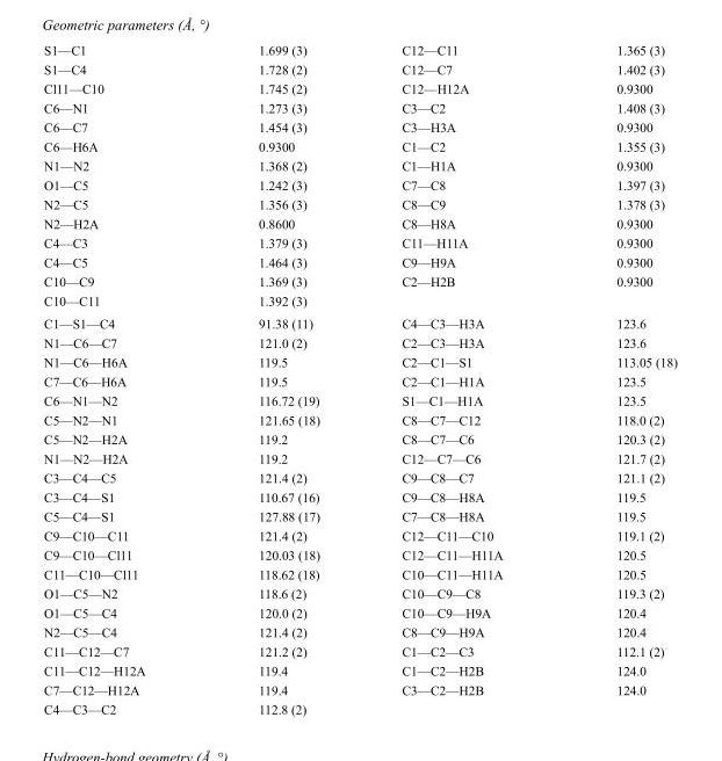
<table><tbody><tr><td>S1—C1</td><td>1.699 (3)</td><td>C12—C11</td><td>1.365 (3)</td></tr><tr><td>S1—C4</td><td>1.728 (2)</td><td>C12—C7</td><td>1.402 (3)</td></tr><tr><td>Cl11—C10</td><td>1.745 (2)</td><td>C12—H12A</td><td>0.9300</td></tr><tr><td>C6—N1</td><td>1.273 (3)</td><td>C3—C2</td><td>1.408 (3)</td></tr><tr><td>C6—C7</td><td>1.454 (3)</td><td>C3—H3A</td><td>0.9300</td></tr><tr><td>C6—H6A</td><td>0.9300</td><td>C1—C2</td><td>1.355 (3)</td></tr><tr><td>N1—N2</td><td>1.368 (2)</td><td>C1—H1A</td><td>0.9300</td></tr><tr><td>O1—C5</td><td>1.242 (3)</td><td>C7—C8</td><td>1.397 (3)</td></tr><tr><td>N2—C5</td><td>1.356 (3)</td><td>C8—C9</td><td>1.378 (3)</td></tr><tr><td>N2—H2A</td><td>0.8600</td><td>C8—H8A</td><td>0.9300</td></tr><tr><td>C4—C3</td><td>1.379 (3)</td><td>C11—H11A</td><td>0.9300</td></tr><tr><td>C4—C5</td><td>1.464 (3)</td><td>C9—H9A</td><td>0.9300</td></tr><tr><td>C10—C9</td><td>1.369 (3)</td><td>C2—H2B</td><td>0.9300</td></tr><tr><td>C10—C11</td><td>1.392 (3)</td><td></td><td></td></tr><tr><td>C1—S1—C4</td><td>91.38 (11)</td><td>C4—C3—H3A</td><td>123.6</td></tr><tr><td>N1—C6—C7</td><td>121.0 (2)</td><td>C2—C3—H3A</td><td>123.6</td></tr><tr><td>N1—C6—H6A</td><td>119.5</td><td>C2—C1—S1</td><td>113.05 (18)</td></tr><tr><td>C7—C6—H6A</td><td>119.5</td><td>C2—C1—H1A</td><td>123.5</td></tr><tr><td>C6—N1—N2</td><td>116.72 (19)</td><td>S1—C1—H1A</td><td>123.5</td></tr><tr><td>C5—N2—N1</td><td>121.65 (18)</td><td>C8—C7—C12</td><td>118.0 (2)</td></tr><tr><td>C5—N2—H2A</td><td>119.2</td><td>C8—C7—C6</td><td>120.3 (2)</td></tr><tr><td>N1—N2—H2A</td><td>119.2</td><td>C12—C7—C6</td><td>121.7 (2)</td></tr><tr><td>C3—C4—C5</td><td>121.4 (2)</td><td>C9—C8—C7</td><td>121.1 (2)</td></tr><tr><td>C3—C4—S1</td><td>110.67 (16)</td><td>C9—C8—H8A</td><td>119.5</td></tr><tr><td>C5—C4—S1</td><td>127.88 (17)</td><td>C7—C8—H8A</td><td>119.5</td></tr><tr><td>C9—C10—C11</td><td>121.4 (2)</td><td>C12—C11—C10</td><td>119.1 (2)</td></tr><tr><td>C9—C10—Cl11</td><td>120.03 (18)</td><td>C12—C11—H11A</td><td>120.5</td></tr><tr><td>C11—C10—Cl11</td><td>118.62 (18)</td><td>C10—C11—H11A</td><td>120.5</td></tr><tr><td>O1—C5—N2</td><td>118.6 (2)</td><td>C10—C9—C8</td><td>119.3 (2)</td></tr><tr><td>O1—C5—C4</td><td>120.0 (2)</td><td>C10—C9—H9A</td><td>120.4</td></tr><tr><td>N2—C5—C4</td><td>121.4 (2)</td><td>C8—C9—H9A</td><td>120.4</td></tr><tr><td>C11—C12—C7</td><td>121.2 (2)</td><td>C1—C2—C3</td><td>112.1 (2)</td></tr><tr><td>C11—C12—H12A</td><td>119.4</td><td>C1—C2—H2B</td><td>124.0</td></tr><tr><td>C7—C12—H12A</td><td>119.4</td><td>C3—C2—H2B</td><td>124.0</td></tr><tr><td>C4—C3—C2</td><td>112.8 (2)</td><td></td><td></td></tr></tbody></table>